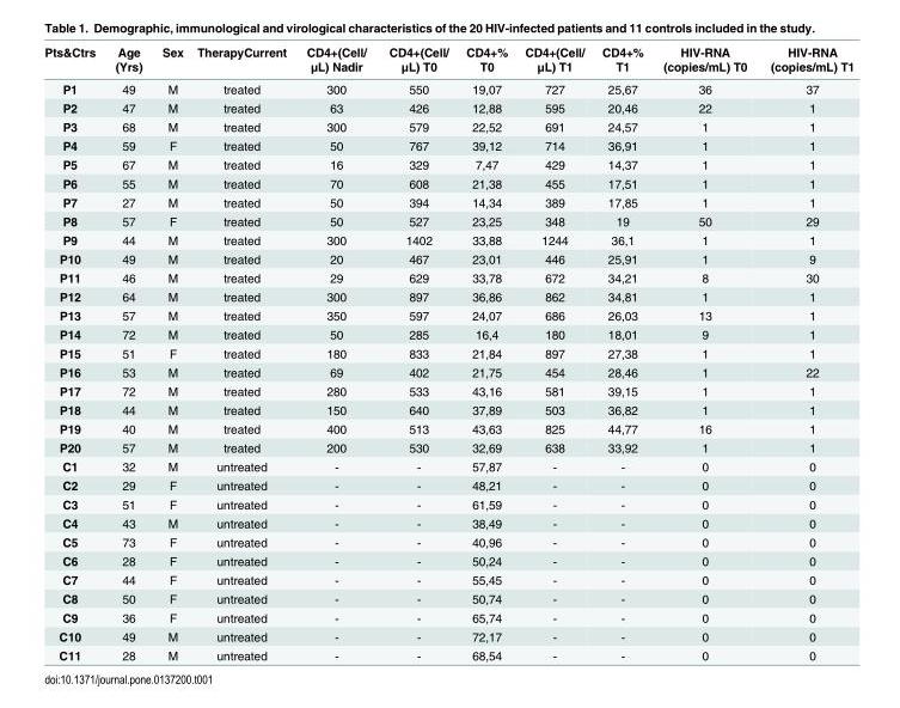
<table><thead><tr><td>Pts&amp;Ctrs</td><td>Age (Yrs)</td><td>Sex</td><td>TherapyCurrent</td><td>CD4+(Cell/ μL) Nadir</td><td>CD4+(Cell/ μL) T0</td><td>CD4+% T0</td><td>CD4+(Cell/ μL) T1</td><td>CD4+% T1</td><td>HIV-RNA (copies/mL) T0</td><td>HIV-RNA (copies/mL) T1</td></tr></thead><tbody><tr><td>P1</td><td>49</td><td>M</td><td>treated</td><td>300</td><td>550</td><td>19,07</td><td>727</td><td>25,67</td><td>36</td><td>37</td></tr><tr><td>P2</td><td>47</td><td>M</td><td>treated</td><td>63</td><td>426</td><td>12,88</td><td>595</td><td>20,46</td><td>22</td><td>1</td></tr><tr><td>P3</td><td>68</td><td>M</td><td>treated</td><td>300</td><td>579</td><td>22,52</td><td>691</td><td>24,57</td><td>1</td><td>1</td></tr><tr><td>P4</td><td>59</td><td>F</td><td>treated</td><td>50</td><td>767</td><td>39,12</td><td>714</td><td>36,91</td><td>1</td><td>1</td></tr><tr><td>P5</td><td>67</td><td>M</td><td>treated</td><td>16</td><td>329</td><td>7,47</td><td>429</td><td>14,37</td><td>1</td><td>1</td></tr><tr><td>P6</td><td>55</td><td>M</td><td>treated</td><td>70</td><td>608</td><td>21,38</td><td>455</td><td>17,51</td><td>1</td><td>1</td></tr><tr><td>P7</td><td>27</td><td>M</td><td>treated</td><td>50</td><td>394</td><td>14,34</td><td>389</td><td>17,85</td><td>1</td><td>1</td></tr><tr><td>P8</td><td>57</td><td>F</td><td>treated</td><td>50</td><td>527</td><td>23,25</td><td>348</td><td>19</td><td>50</td><td>29</td></tr><tr><td>P9</td><td>44</td><td>M</td><td>treated</td><td>300</td><td>1402</td><td>33,88</td><td>1244</td><td>36,1</td><td>1</td><td>1</td></tr><tr><td>P10</td><td>49</td><td>M</td><td>treated</td><td>20</td><td>467</td><td>23,01</td><td>446</td><td>25,91</td><td>1</td><td>9</td></tr><tr><td>P11</td><td>46</td><td>M</td><td>treated</td><td>29</td><td>629</td><td>33,78</td><td>672</td><td>34,21</td><td>8</td><td>30</td></tr><tr><td>P12</td><td>64</td><td>M</td><td>treated</td><td>300</td><td>897</td><td>36,86</td><td>862</td><td>34,81</td><td>1</td><td>1</td></tr><tr><td>P13</td><td>57</td><td>M</td><td>treated</td><td>350</td><td>597</td><td>24,07</td><td>686</td><td>26,03</td><td>13</td><td>1</td></tr><tr><td>P14</td><td>72</td><td>M</td><td>treated</td><td>50</td><td>285</td><td>16,4</td><td>180</td><td>18,01</td><td>9</td><td>1</td></tr><tr><td>P15</td><td>51</td><td>F</td><td>treated</td><td>180</td><td>833</td><td>21,84</td><td>897</td><td>27,38</td><td>1</td><td>1</td></tr><tr><td>P16</td><td>53</td><td>M</td><td>treated</td><td>69</td><td>402</td><td>21,75</td><td>454</td><td>28,46</td><td>1</td><td>22</td></tr><tr><td>P17</td><td>72</td><td>M</td><td>treated</td><td>280</td><td>533</td><td>43,16</td><td>581</td><td>39,15</td><td>1</td><td>1</td></tr><tr><td>P18</td><td>44</td><td>M</td><td>treated</td><td>150</td><td>640</td><td>37,89</td><td>503</td><td>36,82</td><td>1</td><td>1</td></tr><tr><td>P19</td><td>40</td><td>M</td><td>treated</td><td>400</td><td>513</td><td>43,63</td><td>825</td><td>44,77</td><td>16</td><td>1</td></tr><tr><td>P20</td><td>57</td><td>M</td><td>treated</td><td>200</td><td>530</td><td>32,69</td><td>638</td><td>33,92</td><td>1</td><td>1</td></tr><tr><td>C1</td><td>32</td><td>M</td><td>untreated</td><td>-</td><td>-</td><td>57,87</td><td>-</td><td>-</td><td>0</td><td>0</td></tr><tr><td>C2</td><td>29</td><td>F</td><td>untreated</td><td>-</td><td>-</td><td>48,21</td><td>-</td><td>-</td><td>0</td><td>0</td></tr><tr><td>C3</td><td>51</td><td>F</td><td>untreated</td><td>-</td><td>-</td><td>61,59</td><td>-</td><td>-</td><td>0</td><td>0</td></tr><tr><td>C4</td><td>43</td><td>M</td><td>untreated</td><td>-</td><td>-</td><td>38,49</td><td>-</td><td>-</td><td>0</td><td>0</td></tr><tr><td>C5</td><td>73</td><td>F</td><td>untreated</td><td>-</td><td>-</td><td>40,96</td><td>-</td><td>-</td><td>0</td><td>0</td></tr><tr><td>C6</td><td>28</td><td>F</td><td>untreated</td><td>-</td><td>-</td><td>50,24</td><td>-</td><td>-</td><td>0</td><td>0</td></tr><tr><td>C7</td><td>44</td><td>F</td><td>untreated</td><td>-</td><td>-</td><td>55,45</td><td>-</td><td>-</td><td>0</td><td>0</td></tr><tr><td>C8</td><td>50</td><td>F</td><td>untreated</td><td>-</td><td>-</td><td>50,74</td><td>-</td><td>-</td><td>0</td><td>0</td></tr><tr><td>C9</td><td>36</td><td>F</td><td>untreated</td><td>-</td><td>-</td><td>65,74</td><td>-</td><td>-</td><td>0</td><td>0</td></tr><tr><td>C10</td><td>49</td><td>M</td><td>untreated</td><td>-</td><td>-</td><td>72,17</td><td>-</td><td>-</td><td>0</td><td>0</td></tr><tr><td>C11</td><td>28</td><td>M</td><td>untreated</td><td>-</td><td>-</td><td>68,54</td><td>-</td><td>-</td><td>0</td><td>0</td></tr></tbody></table>